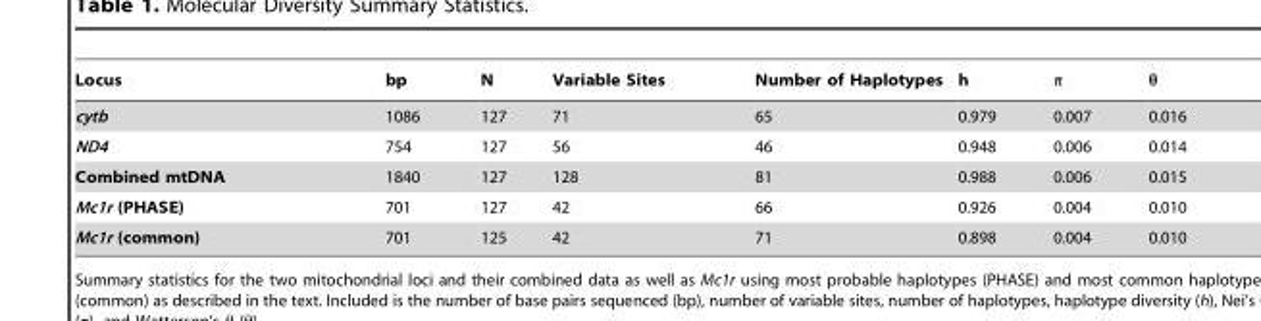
<table><thead><tr><td>Locus</td><td>bp</td><td>N</td><td>Variable Sites</td><td>Number of Haplotypes</td><td>h</td><td>π</td><td>θ</td></tr></thead><tbody><tr><td>cytb</td><td>1086</td><td>127</td><td>71</td><td>65</td><td>0.979</td><td>0.007</td><td>0.016</td></tr><tr><td>ND4</td><td>754</td><td>127</td><td>56</td><td>46</td><td>0.948</td><td>0.006</td><td>0.014</td></tr><tr><td>Combined mtDNA</td><td>1840</td><td>127</td><td>128</td><td>81</td><td>0.988</td><td>0.006</td><td>0.015</td></tr><tr><td>Mc1r (PHASE)</td><td>701</td><td>127</td><td>42</td><td>66</td><td>0.926</td><td>0.004</td><td>0.010</td></tr><tr><td>Mc1r (common)</td><td>701</td><td>125</td><td>42</td><td>71</td><td>0.898</td><td>0.004</td><td>0.010</td></tr></tbody></table>